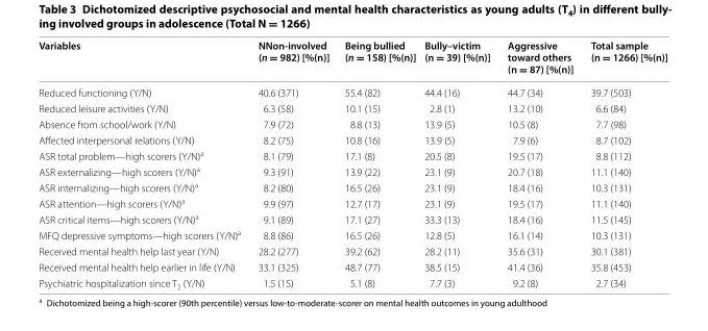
<table><thead><tr><td>Variables</td><td>NNon-involved (n = 982) [%(n)]</td><td>Being bullied (n = 158) [%(n)]</td><td>Bully–victim (n = 39) [%(n)]</td><td>Aggressive toward others (n = 87) [%(n)]</td><td>Total sample (n = 1266) [%(n)]</td></tr></thead><tbody><tr><td>Reduced functioning (Y/N)</td><td>40.6 (371)</td><td>55.4 (82)</td><td>44.4 (16)</td><td>44.7 (34)</td><td>39.7 (503)</td></tr><tr><td>Reduced leisure activities (Y/N)</td><td>6.3 (58)</td><td>10.1 (15)</td><td>2.8 (1)</td><td>13.2 (10)</td><td>6.6 (84)</td></tr><tr><td>Absence from school/work (Y/N)</td><td>7.9 (72)</td><td>8.8 (13)</td><td>13.9 (5)</td><td>10.5 (8)</td><td>7.7 (98)</td></tr><tr><td>Affected interpersonal relations (Y/N)</td><td>8.2 (75)</td><td>10.8 (16)</td><td>13.9 (5)</td><td>7.9 (6)</td><td>8.7 (102)</td></tr><tr><td>ASR total problem—high scorers (Y/N)<sup>a</sup></td><td>8.1 (79)</td><td>17.1 (8)</td><td>20.5 (8)</td><td>19.5 (17)</td><td>8.8 (112)</td></tr><tr><td>ASR externalizing—high scorers (Y/N)<sup>a</sup></td><td>9.3 (91)</td><td>13.9 (22)</td><td>23.1 (9)</td><td>20.7 (18)</td><td>11.1 (140)</td></tr><tr><td>ASR internalizing—high scorers (Y/N)<sup>a</sup></td><td>8.2 (80)</td><td>16.5 (26)</td><td>23.1 (9)</td><td>18.4 (16)</td><td>10.3 (131)</td></tr><tr><td>ASR attention—high scorers (Y/N)<sup>a</sup></td><td>9.9 (97)</td><td>12.7 (17)</td><td>23.1 (9)</td><td>19.5 (17)</td><td>11.1 (140)</td></tr><tr><td>ASR critical items—high scorers (Y/N)<sup>a</sup></td><td>9.1 (89)</td><td>17.1 (27)</td><td>33.3 (13)</td><td>18.4 (16)</td><td>11.5 (145)</td></tr><tr><td>MFQ depressive symptoms—high scorers (Y/N)<sup>a</sup></td><td>8.8 (86)</td><td>16.5 (26)</td><td>12.8 (5)</td><td>16.1 (14)</td><td>10.3 (131)</td></tr><tr><td>Received mental health help last year (Y/N)</td><td>28.2 (277)</td><td>39.2 (62)</td><td>28.2 (11)</td><td>35.6 (31)</td><td>30.1 (381)</td></tr><tr><td>Received mental health help earlier in life (Y/N)</td><td>33.1 (325)</td><td>48.7 (77)</td><td>38.5 (15)</td><td>41.4 (36)</td><td>35.8 (453)</td></tr><tr><td>Psychiatric hospitalization since T<sub>2</sub> (Y/N)</td><td>1.5 (15)</td><td>5.1 (8)</td><td>7.7 (3)</td><td>9.2 (8)</td><td>2.7 (34)</td></tr></tbody></table>